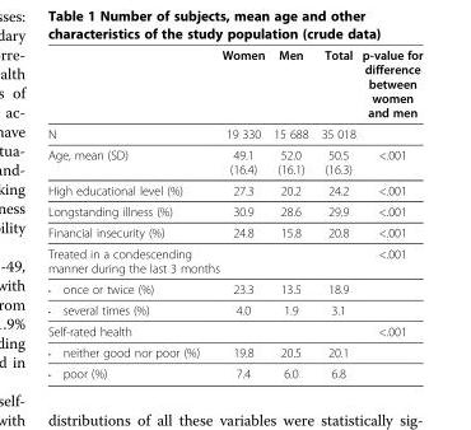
<table><thead><tr><td></td><td>Women</td><td>Men</td><td>Total</td><td>p-value for difference between women and men</td></tr></thead><tbody><tr><td>N</td><td>19 330</td><td>15 688</td><td>35 018</td><td></td></tr><tr><td>Age, mean (SD)</td><td>49.1 (16.4)</td><td>52.0 (16.1)</td><td>50.5 (16.3)</td><td>&lt;.001</td></tr><tr><td>High educational level (%)</td><td>27.3</td><td>20.2</td><td>24.2</td><td>&lt;.001</td></tr><tr><td>Longstanding illness (%)</td><td>30.9</td><td>28.6</td><td>29.9</td><td>&lt;.001</td></tr><tr><td>Financial insecurity (%)</td><td>24.8</td><td>15.8</td><td>20.8</td><td>&lt;.001</td></tr><tr><td>Treated in a condescending manner during the last 3 months</td><td></td><td></td><td></td><td>&lt;.001</td></tr><tr><td>• once or twice (%)</td><td>23.3</td><td>13.5</td><td>18.9</td><td></td></tr><tr><td>• several times (%)</td><td>4.0</td><td>1.9</td><td>3.1</td><td></td></tr><tr><td>Self-rated health</td><td></td><td></td><td></td><td>&lt;.001</td></tr><tr><td>• neither good nor poor (%)</td><td>19.8</td><td>20.5</td><td>20.1</td><td></td></tr><tr><td>• poor (%)</td><td>7.4</td><td>6.0</td><td>6.8</td><td></td></tr></tbody></table>